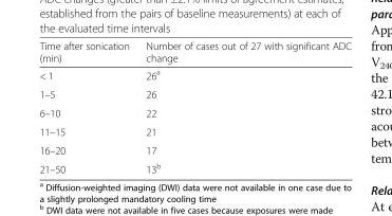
<table><thead><tr><td>Time after sonication (min)</td><td>Number of cases out of 27 with significant ADC change</td></tr></thead><tbody><tr><td>&lt; 1</td><td>26<sup>a</sup></td></tr><tr><td>1–5</td><td>26</td></tr><tr><td>6–10</td><td>22</td></tr><tr><td>11–15</td><td>21</td></tr><tr><td>16–20</td><td>17</td></tr><tr><td>21–50</td><td>13<sup>b</sup></td></tr></tbody></table>